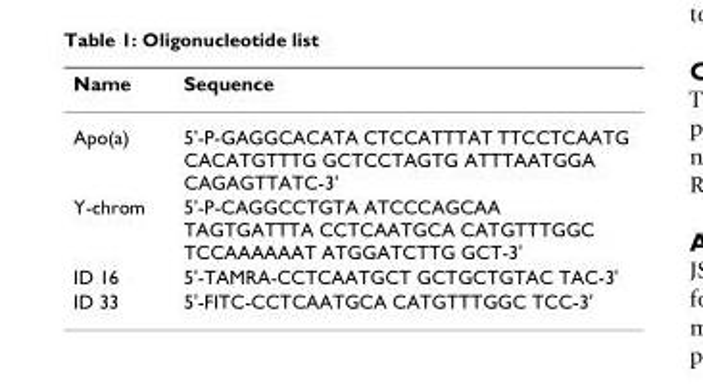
<table><thead><tr><td>Name</td><td>Sequence</td></tr></thead><tbody><tr><td>Apo(a)</td><td>5&#x27;-P-GAGGCACATA CTCCATTTAT TTCCTCAATG CACATGTTTG GCTCCTAGTG ATTTAATGGA CAGAGTTATC-3&#x27;</td></tr><tr><td>Y-chrom</td><td>5&#x27;-P-CAGGCCTGTA ATCCCAGCAA TAGTGATTTA CCTCAATGCA CATGTTTGGC TCCAAAAAAT ATGGATCTTG GCT-3&#x27;</td></tr><tr><td>ID 16</td><td>5&#x27;-TAMRA-CCTCAATGCT GCTGCTGTAC TAC-3&#x27;</td></tr><tr><td>ID 33</td><td>5&#x27;-FITC-CCTCAATGCA CATGTTTGGC TCC-3&#x27;</td></tr></tbody></table>